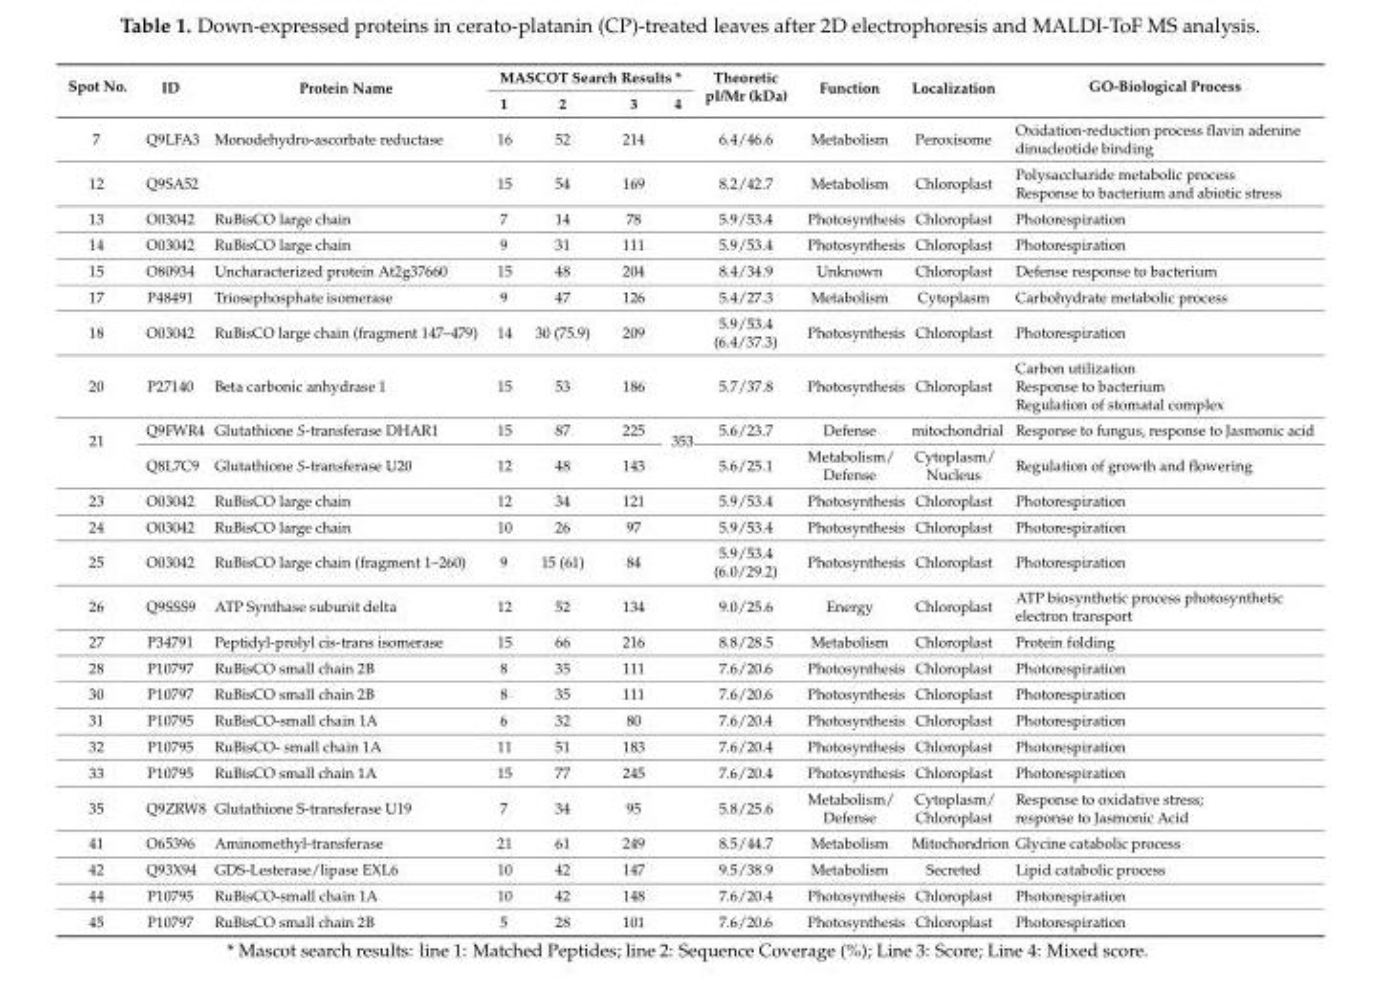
<table><thead><tr><td rowspan="2">Spot No.</td><td rowspan="2">ID</td><td rowspan="2">Protein Name</td><td colspan="4">MASCOT Search Results *</td><td rowspan="2">Theoretic pI/Mr (kDa)</td><td rowspan="2">Function</td><td rowspan="2">Localization</td><td rowspan="2">GO-Biological Process</td></tr><tr><td>1</td><td>2</td><td>3</td><td>4</td></tr></thead><tbody><tr><td>7</td><td>Q9LFA3</td><td>Monodehydro-ascorbate reductase</td><td>16</td><td>52</td><td>214</td><td></td><td>6.4/46.6</td><td>Metabolism</td><td>Peroxisome</td><td>Oxidation-reduction process flavin adenine dinucleotide binding</td></tr><tr><td>12</td><td>Q9SA52</td><td></td><td>15</td><td>54</td><td>169</td><td></td><td>8.2/42.7</td><td>Metabolism</td><td>Chloroplast</td><td>Polysaccharide metabolic process Response to bacterium and abiotic stress</td></tr><tr><td>13</td><td>O03042</td><td>RuBisCO large chain</td><td>7</td><td>14</td><td>78</td><td></td><td>5.9/53.4</td><td>Photosynthesis</td><td>Chloroplast</td><td>Photorespiration</td></tr><tr><td>14</td><td>O03042</td><td>RuBisCO large chain</td><td>9</td><td>31</td><td>111</td><td></td><td>5.9/53.4</td><td>Photosynthesis</td><td>Chloroplast</td><td>Photorespiration</td></tr><tr><td>15</td><td>O80934</td><td>Uncharacterized protein At2g37660</td><td>15</td><td>48</td><td>204</td><td></td><td>8.4/34.9</td><td>Unknown</td><td>Chloroplast</td><td>Defense response to bacterium</td></tr><tr><td>17</td><td>P48491</td><td>Triosephosphate isomerase</td><td>9</td><td>47</td><td>126</td><td></td><td>5.4/27.3</td><td>Metabolism</td><td>Cytoplasm</td><td>Carbohydrate metabolic process</td></tr><tr><td>18</td><td>O03042</td><td>RuBisCO large chain (fragment 147–479)</td><td>14</td><td>30 (75.9)</td><td>209</td><td></td><td>5.9/53.4 (6.4/37.3)</td><td>Photosynthesis</td><td>Chloroplast</td><td>Photorespiration</td></tr><tr><td>20</td><td>P27140</td><td>Beta carbonic anhydrase 1</td><td>15</td><td>53</td><td>186</td><td></td><td>5.7/37.8</td><td>Photosynthesis</td><td>Chloroplast</td><td>Carbon utilization Response to bacterium Regulation of stomatal complex</td></tr><tr><td rowspan="2">21</td><td>Q9FWR4</td><td>Glutathione S-transferase DHAR1</td><td>15</td><td>87</td><td>225</td><td rowspan="2">353</td><td>5.6/23.7</td><td>Defense</td><td>mitochondrial</td><td>Response to fungus, response to Jasmonic acid</td></tr><tr><td>Q8L7C9</td><td>Glutathione S-transferase U20</td><td>12</td><td>48</td><td>143</td><td>5.6/25.1</td><td>Metabolism/ Defense</td><td>Cytoplasm/ Nucleus</td><td>Regulation of growth and flowering</td></tr><tr><td>23</td><td>O03042</td><td>RuBisCO large chain</td><td>12</td><td>34</td><td>121</td><td></td><td>5.9/53.4</td><td>Photosynthesis</td><td>Chloroplast</td><td>Photorespiration</td></tr><tr><td>24</td><td>O03042</td><td>RuBisCO large chain</td><td>10</td><td>26</td><td>97</td><td></td><td>5.9/53.4</td><td>Photosynthesis</td><td>Chloroplast</td><td>Photorespiration</td></tr><tr><td>25</td><td>O03042</td><td>RuBisCO large chain (fragment 1–260)</td><td>9</td><td>15 (61)</td><td>84</td><td></td><td>5.9/53.4 (6.0/29.2)</td><td>Photosynthesis</td><td>Chloroplast</td><td>Photorespiration</td></tr><tr><td>26</td><td>Q9SSS9</td><td>ATP Synthase subunit delta</td><td>12</td><td>52</td><td>134</td><td></td><td>9.0/25.6</td><td>Energy</td><td>Chloroplast</td><td>ATP biosynthetic process photosynthetic electron transport</td></tr><tr><td>27</td><td>P34791</td><td>Peptidyl-prolyl cis-trans isomerase</td><td>15</td><td>66</td><td>216</td><td></td><td>8.8/28.5</td><td>Metabolism</td><td>Chloroplast</td><td>Protein folding</td></tr><tr><td>28</td><td>P10797</td><td>RuBisCO small chain 2B</td><td>8</td><td>35</td><td>111</td><td></td><td>7.6/20.6</td><td>Photosynthesis</td><td>Chloroplast</td><td>Photorespiration</td></tr><tr><td>30</td><td>P10797</td><td>RuBisCO small chain 2B</td><td>8</td><td>35</td><td>111</td><td></td><td>7.6/20.6</td><td>Photosynthesis</td><td>Chloroplast</td><td>Photorespiration</td></tr><tr><td>31</td><td>P10795</td><td>RuBisCO-small chain 1A</td><td>6</td><td>32</td><td>80</td><td></td><td>7.6/20.4</td><td>Photosynthesis</td><td>Chloroplast</td><td>Photorespiration</td></tr><tr><td>32</td><td>P10795</td><td>RuBisCO- small chain 1A</td><td>11</td><td>51</td><td>183</td><td></td><td>7.6/20.4</td><td>Photosynthesis</td><td>Chloroplast</td><td>Photorespiration</td></tr><tr><td>33</td><td>P10795</td><td>RuBisCO small chain 1A</td><td>15</td><td>77</td><td>245</td><td></td><td>7.6/20.4</td><td>Photosynthesis</td><td>Chloroplast</td><td>Photorespiration</td></tr><tr><td>35</td><td>Q9ZRW8</td><td>Glutathione S-transferase U19</td><td>7</td><td>34</td><td>95</td><td></td><td>5.8/25.6</td><td>Metabolism/ Defense</td><td>Cytoplasm/ Chloroplast</td><td>Response to oxidative stress; response to Jasmonic Acid</td></tr><tr><td>41</td><td>O65396</td><td>Aminomethyl-transferase</td><td>21</td><td>61</td><td>249</td><td></td><td>8.5/44.7</td><td>Metabolism</td><td>Mitochondrion</td><td>Glycine catabolic process</td></tr><tr><td>42</td><td>Q93X94</td><td>GDS-Lesterase/lipase EXL6</td><td>10</td><td>42</td><td>147</td><td></td><td>9.5/38.9</td><td>Metabolism</td><td>Secreted</td><td>Lipid catabolic process</td></tr><tr><td>44</td><td>P10795</td><td>RuBisCO-small chain 1A</td><td>10</td><td>42</td><td>148</td><td></td><td>7.6/20.4</td><td>Photosynthesis</td><td>Chloroplast</td><td>Photorespiration</td></tr><tr><td>45</td><td>P10797</td><td>RuBisCO small chain 2B</td><td>5</td><td>28</td><td>101</td><td></td><td>7.6/20.6</td><td>Photosynthesis</td><td>Chloroplast</td><td>Photorespiration</td></tr></tbody></table>